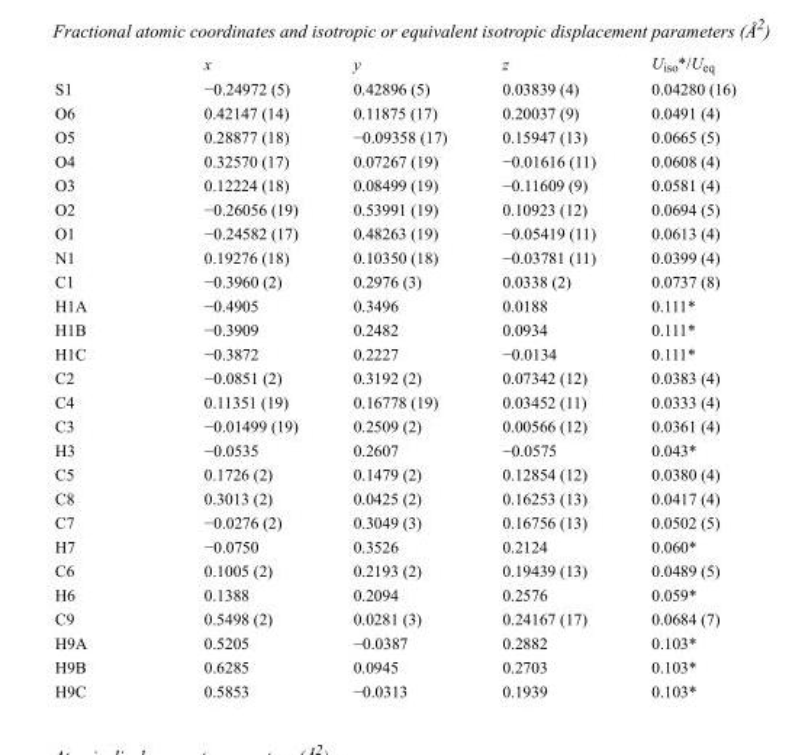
<table><thead><tr><td></td><td>x</td><td>y</td><td>z</td><td>U<sub>iso</sub>*/U<sub>eq</sub></td></tr></thead><tbody><tr><td>S1</td><td>−0.24972 (5)</td><td>0.42896 (5)</td><td>0.03839 (4)</td><td>0.04280 (16)</td></tr><tr><td>O6</td><td>0.42147 (14)</td><td>0.11875 (17)</td><td>0.20037 (9)</td><td>0.0491 (4)</td></tr><tr><td>O5</td><td>0.28877 (18)</td><td>−0.09358 (17)</td><td>0.15947 (13)</td><td>0.0665 (5)</td></tr><tr><td>O4</td><td>0.32570 (17)</td><td>0.07267 (19)</td><td>−0.01616 (11)</td><td>0.0608 (4)</td></tr><tr><td>O3</td><td>0.12224 (18)</td><td>0.08499 (19)</td><td>−0.11609 (9)</td><td>0.0581 (4)</td></tr><tr><td>O2</td><td>−0.26056 (19)</td><td>0.53991 (19)</td><td>0.10923 (12)</td><td>0.0694 (5)</td></tr><tr><td>O1</td><td>−0.24582 (17)</td><td>0.48263 (19)</td><td>−0.05419 (11)</td><td>0.0613 (4)</td></tr><tr><td>N1</td><td>0.19276 (18)</td><td>0.10350 (18)</td><td>−0.03781 (11)</td><td>0.0399 (4)</td></tr><tr><td>C1</td><td>−0.3960 (2)</td><td>0.2976 (3)</td><td>0.0338 (2)</td><td>0.0737 (8)</td></tr><tr><td>H1A</td><td>−0.4905</td><td>0.3496</td><td>0.0188</td><td>0.111*</td></tr><tr><td>H1B</td><td>−0.3909</td><td>0.2482</td><td>0.0934</td><td>0.111*</td></tr><tr><td>H1C</td><td>−0.3872</td><td>0.2227</td><td>−0.0134</td><td>0.111*</td></tr><tr><td>C2</td><td>−0.0851 (2)</td><td>0.3192 (2)</td><td>0.07342 (12)</td><td>0.0383 (4)</td></tr><tr><td>C4</td><td>0.11351 (19)</td><td>0.16778 (19)</td><td>0.03452 (11)</td><td>0.0333 (4)</td></tr><tr><td>C3</td><td>−0.01499 (19)</td><td>0.2509 (2)</td><td>0.00566 (12)</td><td>0.0361 (4)</td></tr><tr><td>H3</td><td>−0.0535</td><td>0.2607</td><td>−0.0575</td><td>0.043*</td></tr><tr><td>C5</td><td>0.1726 (2)</td><td>0.1479 (2)</td><td>0.12854 (12)</td><td>0.0380 (4)</td></tr><tr><td>C8</td><td>0.3013 (2)</td><td>0.0425 (2)</td><td>0.16253 (13)</td><td>0.0417 (4)</td></tr><tr><td>C7</td><td>−0.0276 (2)</td><td>0.3049 (3)</td><td>0.16756 (13)</td><td>0.0502 (5)</td></tr><tr><td>H7</td><td>−0.0750</td><td>0.3526</td><td>0.2124</td><td>0.060*</td></tr><tr><td>C6</td><td>0.1005 (2)</td><td>0.2193 (2)</td><td>0.19439 (13)</td><td>0.0489 (5)</td></tr><tr><td>H6</td><td>0.1388</td><td>0.2094</td><td>0.2576</td><td>0.059*</td></tr><tr><td>C9</td><td>0.5498 (2)</td><td>0.0281 (3)</td><td>0.24167 (17)</td><td>0.0684 (7)</td></tr><tr><td>H9A</td><td>0.5205</td><td>−0.0387</td><td>0.2882</td><td>0.103*</td></tr><tr><td>H9B</td><td>0.6285</td><td>0.0945</td><td>0.2703</td><td>0.103*</td></tr><tr><td>H9C</td><td>0.5853</td><td>−0.0313</td><td>0.1939</td><td>0.103*</td></tr></tbody></table>